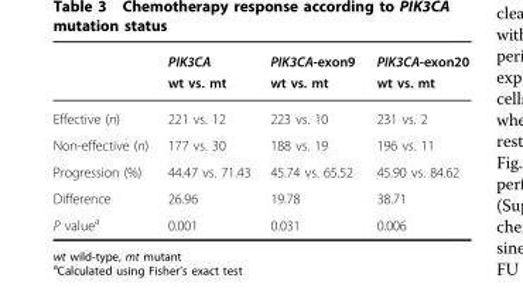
<table><thead><tr><td></td><td>PIK3CA wt vs. mt</td><td>PIK3CA-exon9 wt vs. mt</td><td>PIK3CA-exon20 wt vs. mt</td></tr></thead><tbody><tr><td>Effective (n)</td><td>221 vs. 12</td><td>223 vs. 10</td><td>231 vs. 2</td></tr><tr><td>Non-effective (n)</td><td>177 vs. 30</td><td>188 vs. 19</td><td>196 vs. 11</td></tr><tr><td>Progression (%)</td><td>44.47 vs. 71.43</td><td>45.74 vs. 65.52</td><td>45.90 vs. 84.62</td></tr><tr><td>Difference</td><td>26.96</td><td>19.78</td><td>38.71</td></tr><tr><td>P value<sup>a</sup></td><td>0.001</td><td>0.031</td><td>0.006</td></tr></tbody></table>